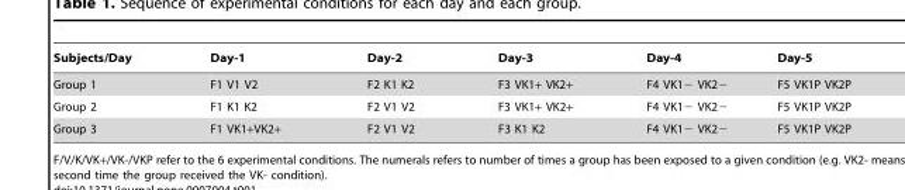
<table><thead><tr><td>Subjects/Day</td><td>Day-1</td><td>Day-2</td><td>Day-3</td><td>Day-4</td><td>Day-5</td></tr></thead><tbody><tr><td>Group 1</td><td>F1 V1 V2</td><td>F2 K1 K2</td><td>F3 VK1+ VK2+</td><td>F4 VK1− VK2−</td><td>F5 VK1P VK2P</td></tr><tr><td>Group 2</td><td>F1 K1 K2</td><td>F2 V1 V2</td><td>F3 VK1+ VK2+</td><td>F4 VK1− VK2−</td><td>F5 VK1P VK2P</td></tr><tr><td>Group 3</td><td>F1 VK1+VK2+</td><td>F2 V1 V2</td><td>F3 K1 K2</td><td>F4 VK1− VK2−</td><td>F5 VK1P VK2P</td></tr></tbody></table>